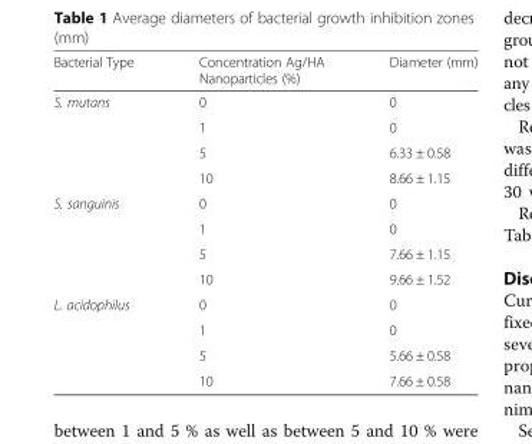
<table><thead><tr><td>Bacterial Type</td><td>Concentration Ag/HA Nanoparticles (%)</td><td>Diameter (mm)</td></tr></thead><tbody><tr><td rowspan="4">S. mutans</td><td>0</td><td>0</td></tr><tr><td>1</td><td>0</td></tr><tr><td>5</td><td>6.33 ± 0.58</td></tr><tr><td>10</td><td>8.66 ± 1.15</td></tr><tr><td rowspan="4">S. sanguinis</td><td>0</td><td>0</td></tr><tr><td>1</td><td>0</td></tr><tr><td>5</td><td>7.66 ± 1.15</td></tr><tr><td>10</td><td>9.66 ± 1.52</td></tr><tr><td rowspan="4">L. acidophilus</td><td>0</td><td>0</td></tr><tr><td>1</td><td>0</td></tr><tr><td>5</td><td>5.66 ± 0.58</td></tr><tr><td>10</td><td>7.66 ± 0.58</td></tr></tbody></table>